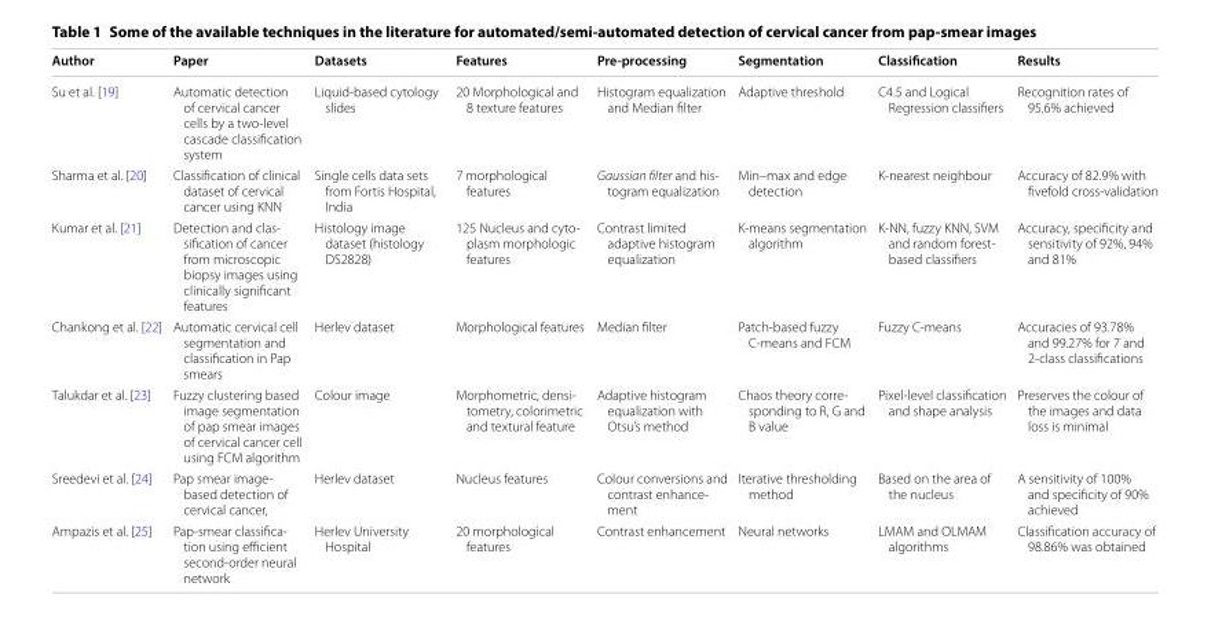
<table><thead><tr><td>Author</td><td>Paper</td><td>Datasets</td><td>Features</td><td>Pre‑processing</td><td>Segmentation</td><td>Classification</td><td>Results</td></tr></thead><tbody><tr><td>Su et al. [19]</td><td>Automatic detection of cervical cancer cells by a two‑level cascade classification system</td><td>Liquid‑based cytology slides</td><td>20 Morphological and 8 texture features</td><td>Histogram equalization and Median filter</td><td>Adaptive threshold</td><td>C4.5 and Logical Regression classifiers</td><td>Recognition rates of 95.6% achieved</td></tr><tr><td>Sharma et al. [20]</td><td>Classification of clinical dataset of cervical cancer using KNN</td><td>Single cells data sets from Fortis Hospital, India</td><td>7 morphological features</td><td>Gaussian filter and his‑ togram equalization</td><td>Min–max and edge detection</td><td>K‑nearest neighbour</td><td>Accuracy of 82.9% with fivefold cross‑validation</td></tr><tr><td>Kumar et al. [21]</td><td>Detection and clas‑ sification of cancer from microscopic biopsy images using clinically significant features</td><td>Histology image dataset (histology DS2828)</td><td>125 Nucleus and cyto‑ plasm morphologic features</td><td>Contrast limited adaptive histogram equalization</td><td>K‑means segmentation algorithm</td><td>K‑NN, fuzzy KNN, SVM and random forest‑ based classifiers</td><td>Accuracy, specificity and sensitivity of 92%, 94% and 81%</td></tr><tr><td>Chankong et al. [22]</td><td>Automatic cervical cell segmentation and classification in Pap smears</td><td>Herlev dataset</td><td>Morphological features</td><td>Median filter</td><td>Patch‑based fuzzy C‑means and FCM</td><td>Fuzzy C‑means</td><td>Accuracies of 93.78% and 99.27% for 7 and 2‑class classifications</td></tr><tr><td>Talukdar et al. [23]</td><td>Fuzzy clustering based image segmentation of pap smear images of cervical cancer cell using FCM algorithm</td><td>Colour image</td><td>Morphometric, densi‑ tometry, colorimetric and textural feature</td><td>Adaptive histogram equalization with Otsu’s method</td><td>Chaos theory corre‑ sponding to R, G and B value</td><td>Pixel‑level classification and shape analysis</td><td>Preserves the colour of the images and data loss is minimal</td></tr><tr><td>Sreedevi et al. [24]</td><td>Pap smear image‑ based detection of cervical cancer,</td><td>Herlev dataset</td><td>Nucleus features</td><td>Colour conversions and contrast enhance‑ ment</td><td>Iterative thresholding method</td><td>Based on the area of the nucleus</td><td>A sensitivity of 100% and specificity of 90% achieved</td></tr><tr><td>Ampazis et al. [25]</td><td>Pap‑smear classifica‑ tion using efficient second‑order neural network</td><td>Herlev University Hospital</td><td>20 morphological features</td><td>Contrast enhancement</td><td>Neural networks</td><td>LMAM and OLMAM algorithms</td><td>Classification accuracy of 98.86% was obtained</td></tr></tbody></table>